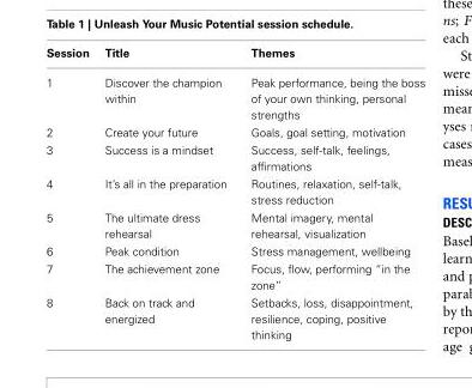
<table><thead><tr><td>Session</td><td>Title</td><td>Themes</td></tr></thead><tbody><tr><td>1</td><td>Discover the champion within</td><td>Peak performance, being the boss of your own thinking, personal strengths</td></tr><tr><td>2</td><td>Create your future</td><td>Goals, goal setting, motivation</td></tr><tr><td>3</td><td>Success is a mindset</td><td>Success, self-talk, feelings, affirmations</td></tr><tr><td>4</td><td>It’s all in the preparation</td><td>Routines, relaxation, self-talk, stress reduction</td></tr><tr><td>5</td><td>The ultimate dress rehearsal</td><td>Mental imagery, mental rehearsal, visualization</td></tr><tr><td>6</td><td>Peak condition</td><td>Stress management, wellbeing</td></tr><tr><td>7</td><td>The achievement zone</td><td>Focus, flow, performing “in the zone”</td></tr><tr><td>8</td><td>Back on track and energized</td><td>Setbacks, loss, disappointment, resilience, coping, positive thinking</td></tr></tbody></table>